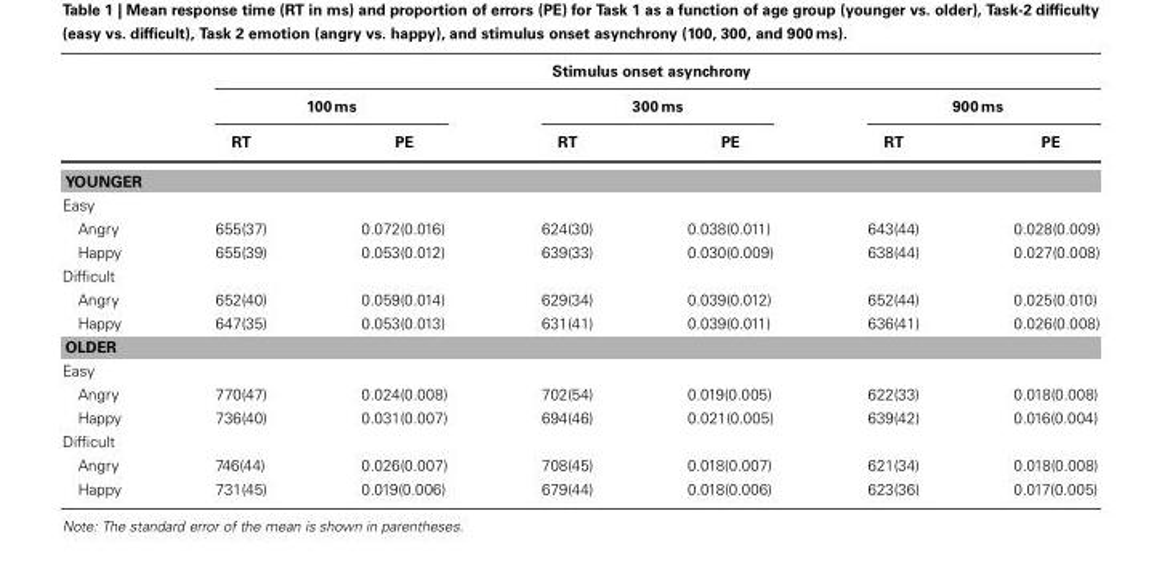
<table><thead><tr><td rowspan="3"></td><td colspan="6">Stimulus onset asynchrony</td></tr><tr><td colspan="2">100 ms</td><td colspan="2">300 ms</td><td colspan="2">900 ms</td></tr><tr><td>RT</td><td>PE</td><td>RT</td><td>PE</td><td>RT</td><td>PE</td></tr></thead><tbody><tr><td colspan="7">YOUNGER</td></tr><tr><td colspan="7">Easy</td></tr><tr><td>Angry</td><td>655(37)</td><td>0.072(0.016)</td><td>624(30)</td><td>0.038(0.011)</td><td>643(44)</td><td>0.028(0.009)</td></tr><tr><td>Happy</td><td>655(39)</td><td>0.053(0.012)</td><td>639(33)</td><td>0.030(0.009)</td><td>638(44)</td><td>0.027(0.008)</td></tr><tr><td colspan="7">Difficult</td></tr><tr><td>Angry</td><td>652(40)</td><td>0.059(0.014)</td><td>629(34)</td><td>0.039(0.012)</td><td>652(44)</td><td>0.025(0.010)</td></tr><tr><td>Happy</td><td>647(35)</td><td>0.053(0.013)</td><td>631(41)</td><td>0.039(0.011)</td><td>636(41)</td><td>0.026(0.008)</td></tr><tr><td colspan="7">OLDER</td></tr><tr><td colspan="7">Easy</td></tr><tr><td>Angry</td><td>770(47)</td><td>0.024(0.008)</td><td>702(54)</td><td>0.019(0.005)</td><td>622(33)</td><td>0.018(0.008)</td></tr><tr><td>Happy</td><td>736(40)</td><td>0.031(0.007)</td><td>694(46)</td><td>0.021(0.005)</td><td>639(42)</td><td>0.016(0.004)</td></tr><tr><td colspan="7">Difficult</td></tr><tr><td>Angry</td><td>746(44)</td><td>0.026(0.007)</td><td>708(45)</td><td>0.018(0.007)</td><td>621(34)</td><td>0.018(0.008)</td></tr><tr><td>Happy</td><td>731(45)</td><td>0.019(0.006)</td><td>679(44)</td><td>0.018(0.006)</td><td>623(36)</td><td>0.017(0.005)</td></tr></tbody></table>